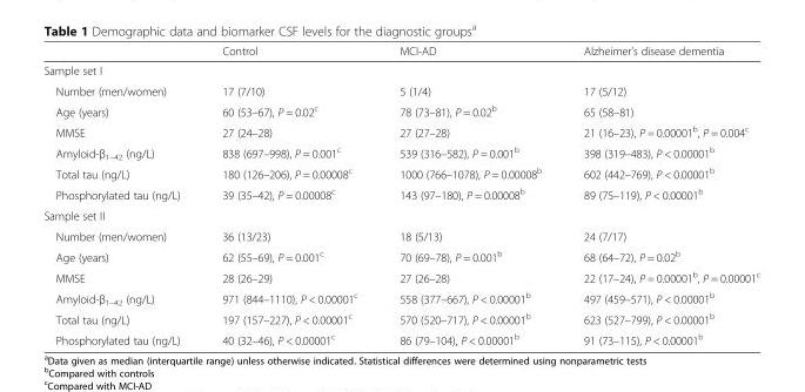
<table><thead><tr><td></td><td>Control</td><td>MCI-AD</td><td>Alzheimer’s disease dementia</td></tr></thead><tbody><tr><td colspan="4">Sample set I</td></tr><tr><td>Number (men/women)</td><td>17 (7/10)</td><td>5 (1/4)</td><td>17 (5/12)</td></tr><tr><td>Age (years)</td><td>60 (53–67), P = 0.02<sup>c</sup></td><td>78 (73–81), P = 0.02<sup>b</sup></td><td>65 (58–81)</td></tr><tr><td>MMSE</td><td>27 (24–28)</td><td>27 (27–28)</td><td>21 (16–23), P = 0.00001<sup>b</sup>, P = 0.004<sup>c</sup></td></tr><tr><td>Amyloid-β<sub>1–42</sub> (ng/L)</td><td>838 (697–998), P = 0.001<sup>c</sup></td><td>539 (316–582), P = 0.001<sup>b</sup></td><td>398 (319–483), P &lt; 0.00001<sup>b</sup></td></tr><tr><td>Total tau (ng/L)</td><td>180 (126–206), P = 0.00008<sup>c</sup></td><td>1000 (766–1078), P = 0.00008<sup>b</sup></td><td>602 (442–769), P &lt; 0.00001<sup>b</sup></td></tr><tr><td>Phosphorylated tau (ng/L)</td><td>39 (35–42), P = 0.00008<sup>c</sup></td><td>143 (97–180), P = 0.00008<sup>b</sup></td><td>89 (75–119), P &lt; 0.00001<sup>b</sup></td></tr><tr><td colspan="4">Sample set II</td></tr><tr><td>Number (men/women)</td><td>36 (13/23)</td><td>18 (5/13)</td><td>24 (7/17)</td></tr><tr><td>Age (years)</td><td>62 (55–69), P = 0.001<sup>c</sup></td><td>70 (69–78), P = 0.001<sup>b</sup></td><td>68 (64–72), P = 0.02<sup>b</sup></td></tr><tr><td>MMSE</td><td>28 (26–29)</td><td>27 (26–28)</td><td>22 (17–24), P = 0.00001<sup>b</sup>, P = 0.00001<sup>c</sup></td></tr><tr><td>Amyloid-β<sub>1–42</sub> (ng/L)</td><td>971 (844–1110), P &lt; 0.00001<sup>c</sup></td><td>558 (377–667), P &lt; 0.00001<sup>b</sup></td><td>497 (459–571), P &lt; 0.00001<sup>b</sup></td></tr><tr><td>Total tau (ng/L)</td><td>197 (157–227), P &lt; 0.00001<sup>c</sup></td><td>570 (520–717), P &lt; 0.00001<sup>b</sup></td><td>623 (527–799), P &lt; 0.00001<sup>b</sup></td></tr><tr><td>Phosphorylated tau (ng/L)</td><td>40 (32–46), P &lt; 0.00001<sup>c</sup></td><td>86 (79–104), P &lt; 0.00001<sup>b</sup></td><td>91 (73–115), P &lt; 0.00001<sup>b</sup></td></tr></tbody></table>